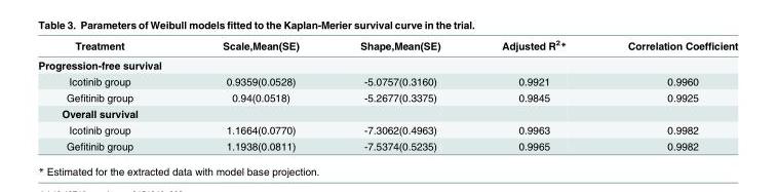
<table><thead><tr><td>Treatment</td><td>Scale,Mean(SE)</td><td>Shape,Mean(SE)</td><td>Adjusted R<sup>2</sup>*</td><td>Correlation Coefficient</td></tr></thead><tbody><tr><td colspan="5">Progression-free survival</td></tr><tr><td>Icotinib group</td><td>0.9359(0.0528)</td><td>-5.0757(0.3160)</td><td>0.9921</td><td>0.9960</td></tr><tr><td>Gefitinib group</td><td>0.94(0.0518)</td><td>-5.2677(0.3375)</td><td>0.9845</td><td>0.9925</td></tr><tr><td colspan="5">Overall survival</td></tr><tr><td>Icotinib group</td><td>1.1664(0.0770)</td><td>-7.3062(0.4963)</td><td>0.9963</td><td>0.9982</td></tr><tr><td>Gefitinib group</td><td>1.1938(0.0811)</td><td>-7.5374(0.5235)</td><td>0.9965</td><td>0.9982</td></tr></tbody></table>